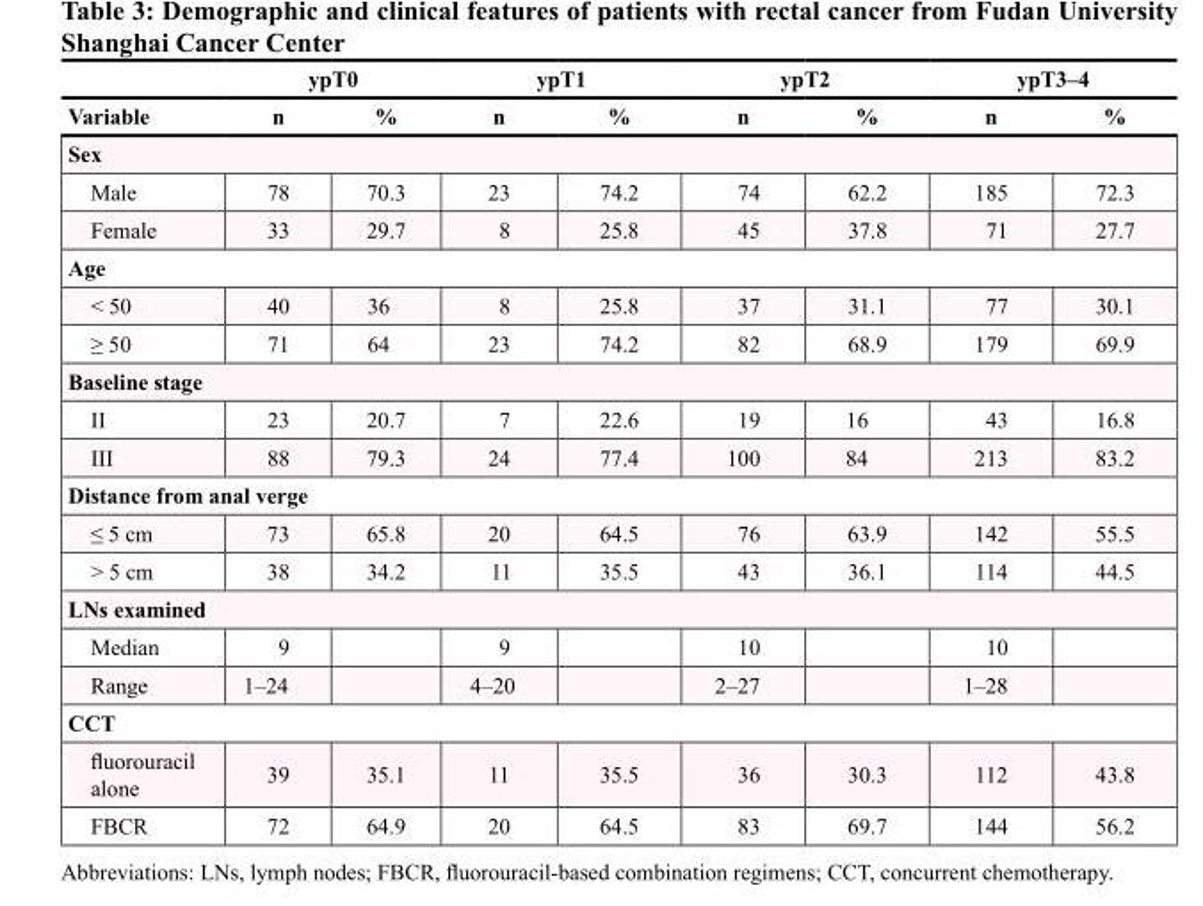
<table><thead><tr><td rowspan="2">Variable</td><td colspan="2">ypT0</td><td colspan="2">ypT1</td><td colspan="2">ypT2</td><td colspan="2">ypT3–4</td></tr><tr><td>n</td><td>%</td><td>n</td><td>%</td><td>n</td><td>%</td><td>n</td><td>%</td></tr></thead><tbody><tr><td colspan="9">Sex</td></tr><tr><td>Male</td><td>78</td><td>70.3</td><td>23</td><td>74.2</td><td>74</td><td>62.2</td><td>185</td><td>72.3</td></tr><tr><td>Female</td><td>33</td><td>29.7</td><td>8</td><td>25.8</td><td>45</td><td>37.8</td><td>71</td><td>27.7</td></tr><tr><td colspan="9">Age</td></tr><tr><td>&lt; 50</td><td>40</td><td>36</td><td>8</td><td>25.8</td><td>37</td><td>31.1</td><td>77</td><td>30.1</td></tr><tr><td>≥ 50</td><td>71</td><td>64</td><td>23</td><td>74.2</td><td>82</td><td>68.9</td><td>179</td><td>69.9</td></tr><tr><td colspan="9">Baseline stage</td></tr><tr><td>II</td><td>23</td><td>20.7</td><td>7</td><td>22.6</td><td>19</td><td>16</td><td>43</td><td>16.8</td></tr><tr><td>III</td><td>88</td><td>79.3</td><td>24</td><td>77.4</td><td>100</td><td>84</td><td>213</td><td>83.2</td></tr><tr><td colspan="9">Distance from anal verge</td></tr><tr><td>≤ 5 cm</td><td>73</td><td>65.8</td><td>20</td><td>64.5</td><td>76</td><td>63.9</td><td>142</td><td>55.5</td></tr><tr><td>&gt; 5 cm</td><td>38</td><td>34.2</td><td>11</td><td>35.5</td><td>43</td><td>36.1</td><td>114</td><td>44.5</td></tr><tr><td colspan="9">LNs examined</td></tr><tr><td>Median</td><td>9</td><td></td><td>9</td><td></td><td>10</td><td></td><td>10</td><td></td></tr><tr><td>Range</td><td>1–24</td><td></td><td>4–20</td><td></td><td>2–27</td><td></td><td>1–28</td><td></td></tr><tr><td colspan="9">CCT</td></tr><tr><td>fluorouracil alone</td><td>39</td><td>35.1</td><td>11</td><td>35.5</td><td>36</td><td>30.3</td><td>112</td><td>43.8</td></tr><tr><td>FBCR</td><td>72</td><td>64.9</td><td>20</td><td>64.5</td><td>83</td><td>69.7</td><td>144</td><td>56.2</td></tr></tbody></table>